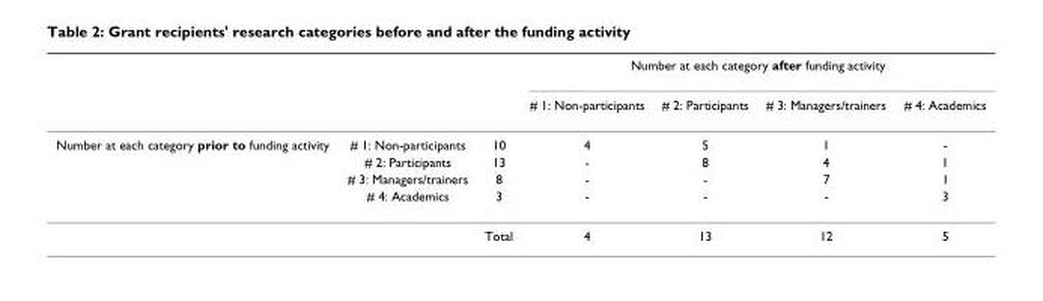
<table><thead><tr><td rowspan="2"></td><td rowspan="2"></td><td rowspan="2"></td><td colspan="4">Number at each category after funding activity</td></tr><tr><td># 1: Non-participants</td><td># 2: Participants</td><td># 3: Managers/trainers</td><td># 4: Academics</td></tr></thead><tbody><tr><td rowspan="5">Number at each category prior to funding activity</td><td># 1: Non-participants</td><td>10</td><td>4</td><td>5</td><td>1</td><td>-</td></tr><tr><td># 2: Participants</td><td>13</td><td>-</td><td>8</td><td>4</td><td>1</td></tr><tr><td># 3: Managers/trainers</td><td>8</td><td>-</td><td>-</td><td>7</td><td>1</td></tr><tr><td># 4: Academics</td><td>3</td><td>-</td><td>-</td><td>-</td><td>3</td></tr><tr><td></td><td>Total</td><td>4</td><td>13</td><td>12</td><td>5</td></tr></tbody></table>